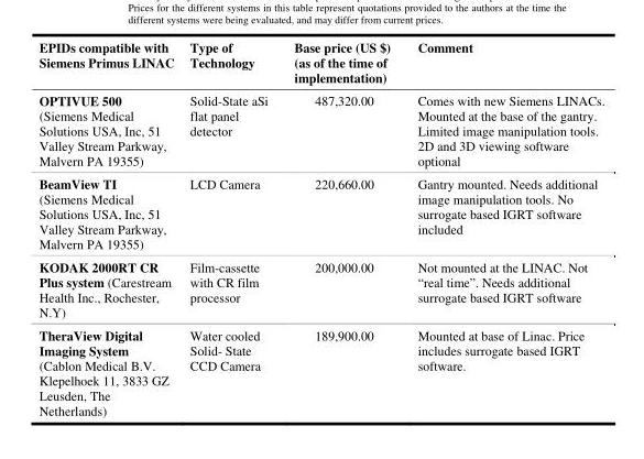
<table><thead><tr><td>EPIDs compatible with Siemens Primus LINAC</td><td>Type of Technology</td><td>Base price (US $) (as of the time of implementation)</td><td>Comment</td></tr></thead><tbody><tr><td>OPTIVUE 500 (Siemens Medical Solutions USA, Inc, 51 Valley Stream Parkway, Malvern PA 19355)</td><td>Solid-State aSi flat panel detector</td><td>487,320.00</td><td>Comes with new Siemens LINACs. Mounted at the base of the gantry. Limited image manipulation tools. 2D and 3D viewing software optional</td></tr><tr><td>BeamView TI (Siemens Medical Solutions USA, Inc, 51 Valley Stream Parkway, Malvern PA 19355)</td><td>LCD Camera</td><td>220,660.00</td><td>Gantry mounted. Needs additional image manipulation tools. No surrogate based IGRT software included</td></tr><tr><td>KODAK 2000RT CR Plus system (Carestream Health Inc., Rochester, N.Y)</td><td>Film-cassette with CR film processor</td><td>200,000.00</td><td>Not mounted at the LINAC. Not “real time”. Needs additional surrogate based IGRT software</td></tr><tr><td>TheraView Digital Imaging System (Cablon Medical B.V. Klepelhoek 11, 3833 GZ Leusden, The Netherlands)</td><td>Water cooled Solid- State CCD Camera</td><td>189,900.00</td><td>Mounted at base of Linac. Price includes surrogate based IGRT software.</td></tr></tbody></table>